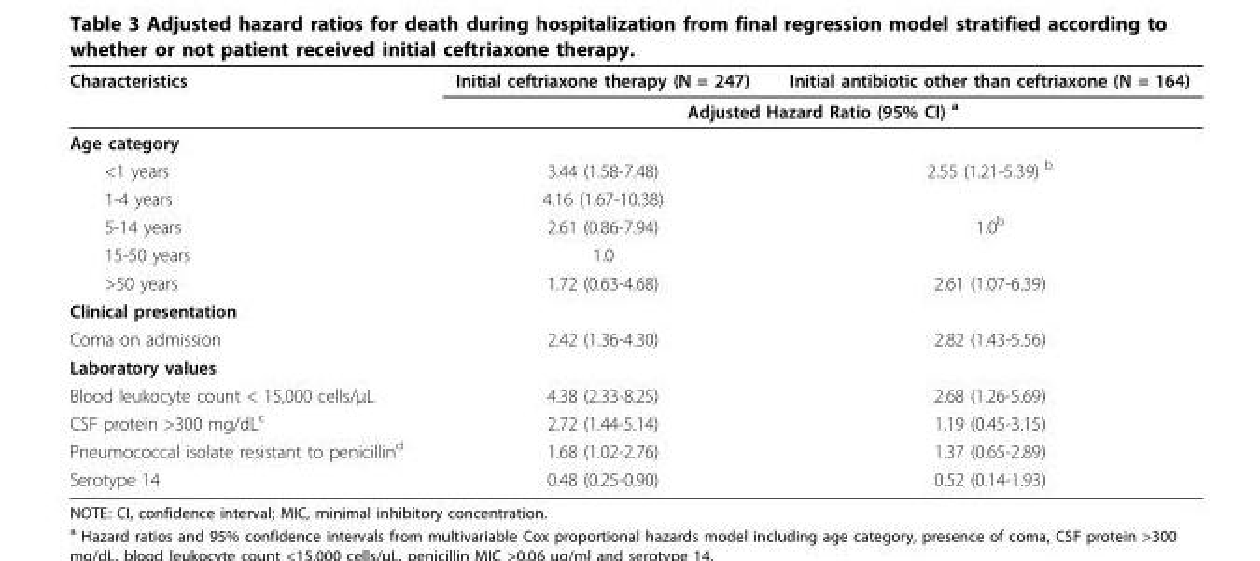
<table><thead><tr><td rowspan="2">Characteristics</td><td>Initial ceftriaxone therapy (N = 247)</td><td>Initial antibiotic other than ceftriaxone (N = 164)</td></tr><tr><td colspan="2">Adjusted Hazard Ratio (95% CI) <sup>a</sup></td></tr></thead><tbody><tr><td colspan="3">Age category</td></tr><tr><td>&lt;1 years</td><td>3.44 (1.58-7.48)</td><td>2.55 (1.21-5.39) <sup>b</sup></td></tr><tr><td>1-4 years</td><td>4.16 (1.67-10.38)</td><td></td></tr><tr><td>5-14 years</td><td>2.61 (0.86-7.94)</td><td>1.0<sup>b</sup></td></tr><tr><td>15-50 years</td><td>1.0</td><td></td></tr><tr><td>&gt;50 years</td><td>1.72 (0.63-4.68)</td><td>2.61 (1.07-6.39)</td></tr><tr><td colspan="3">Clinical presentation</td></tr><tr><td>Coma on admission</td><td>2.42 (1.36-4.30)</td><td>2.82 (1.43-5.56)</td></tr><tr><td colspan="3">Laboratory values</td></tr><tr><td>Blood leukocyte count &lt; 15,000 cells/μL</td><td>4.38 (2.33-8.25)</td><td>2.68 (1.26-5.69)</td></tr><tr><td>CSF protein &gt;300 mg/dL<sup>c</sup></td><td>2.72 (1.44-5.14)</td><td>1.19 (0.45-3.15)</td></tr><tr><td>Pneumococcal isolate resistant to penicillin<sup>d</sup></td><td>1.68 (1.02-2.76)</td><td>1.37 (0.65-2.89)</td></tr><tr><td>Serotype 14</td><td>0.48 (0.25-0.90)</td><td>0.52 (0.14-1.93)</td></tr></tbody></table>